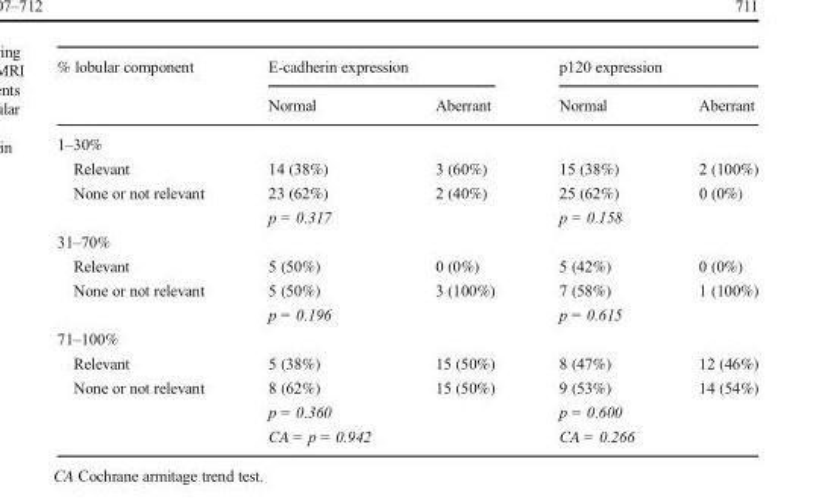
<table><thead><tr><td rowspan="2">% lobular component</td><td colspan="2">E-cadherin expression</td><td colspan="2">p120 expression</td></tr><tr><td>Normal</td><td>Aberrant</td><td>Normal</td><td>Aberrant</td></tr></thead><tbody><tr><td colspan="5">1–30%</td></tr><tr><td>Relevant</td><td>14 (38%)</td><td>3 (60%)</td><td>15 (38%)</td><td>2 (100%)</td></tr><tr><td rowspan="2">None or not relevant</td><td>23 (62%)</td><td>2 (40%)</td><td>25 (62%)</td><td>0 (0%)</td></tr><tr><td>p = 0.317</td><td></td><td>p = 0.158</td><td></td></tr><tr><td colspan="5">31–70%</td></tr><tr><td>Relevant</td><td>5 (50%)</td><td>0 (0%)</td><td>5 (42%)</td><td>0 (0%)</td></tr><tr><td rowspan="2">None or not relevant</td><td>5 (50%)</td><td>3 (100%)</td><td>7 (58%)</td><td>1 (100%)</td></tr><tr><td>p = 0.196</td><td></td><td>p = 0.615</td><td></td></tr><tr><td colspan="5">71–100%</td></tr><tr><td>Relevant</td><td>5 (38%)</td><td>15 (50%)</td><td>8 (47%)</td><td>12 (46%)</td></tr><tr><td rowspan="2">None or not relevant</td><td>8 (62%)</td><td>15 (50%)</td><td>9 (53%)</td><td>14 (54%)</td></tr><tr><td>p = 0.360 CA = p = 0.942</td><td></td><td>p = 0.600 CA = 0.266</td><td></td></tr></tbody></table>